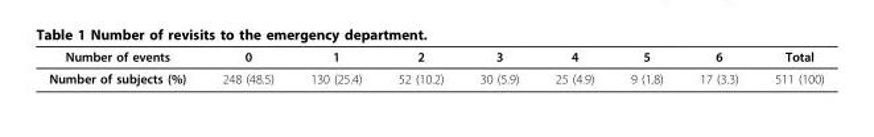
<table><thead><tr><td>Number of events</td><td>0</td><td>1</td><td>2</td><td>3</td><td>4</td><td>5</td><td>6</td><td>Total</td></tr></thead><tbody><tr><td>Number of subjects (%)</td><td>248 (48.5)</td><td>130 (25.4)</td><td>52 (10.2)</td><td>30 (5.9)</td><td>25 (4.9)</td><td>9 (1.8)</td><td>17 (3.3)</td><td>511 (100)</td></tr></tbody></table>